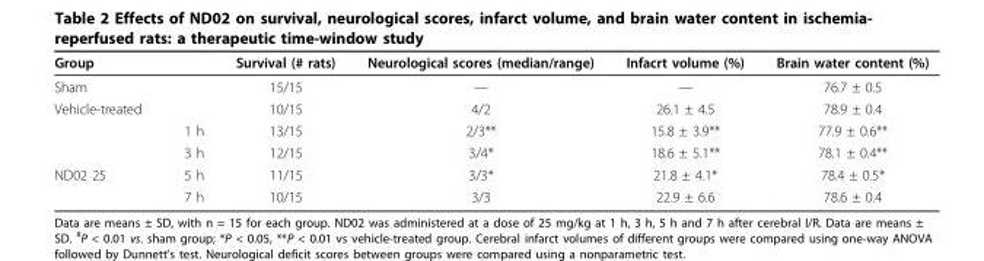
<table><thead><tr><td>Group</td><td></td><td>Survival (# rats)</td><td>Neurological scores (median/range)</td><td>Infacrt volume (%)</td><td>Brain water content (%)</td></tr></thead><tbody><tr><td>Sham</td><td></td><td>15/15</td><td>—</td><td>—</td><td>76.7 ± 0.5</td></tr><tr><td rowspan="3">Vehicle-treated</td><td></td><td>10/15</td><td>4/2</td><td>26.1 ± 4.5</td><td>78.9 ± 0.4</td></tr><tr><td>1 h</td><td>13/15</td><td>2/3**</td><td>15.8 ± 3.9**</td><td>77.9 ± 0.6**</td></tr><tr><td>3 h</td><td>12/15</td><td>3/4*</td><td>18.6 ± 5.1**</td><td>78.1 ± 0.4**</td></tr><tr><td rowspan="2">ND02 25</td><td>5 h</td><td>11/15</td><td>3/3*</td><td>21.8 ± 4.1*</td><td>78.4 ± 0.5*</td></tr><tr><td>7 h</td><td>10/15</td><td>3/3</td><td>22.9 ± 6.6</td><td>78.6 ± 0.4</td></tr></tbody></table>